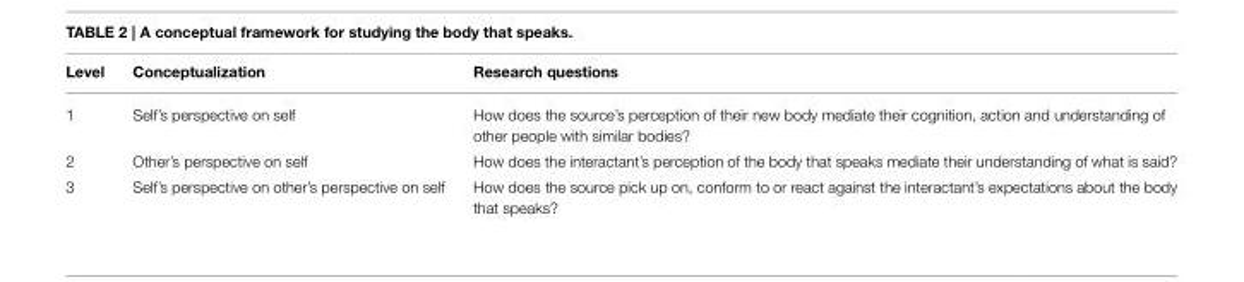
<table><thead><tr><td>Level</td><td>Conceptualization</td><td>Research questions</td></tr></thead><tbody><tr><td>1</td><td>Self’s perspective on self</td><td>How does the source’s perception of their new body mediate their cognition, action and understanding of other people with similar bodies?</td></tr><tr><td>2</td><td>Other’s perspective on self</td><td>How does the interactant’s perception of the body that speaks mediate their understanding of what is said?</td></tr><tr><td>3</td><td>Self’s perspective on other’s perspective on self</td><td>How does the source pick up on, conform to or react against the interactant’s expectations about the body that speaks?</td></tr></tbody></table>